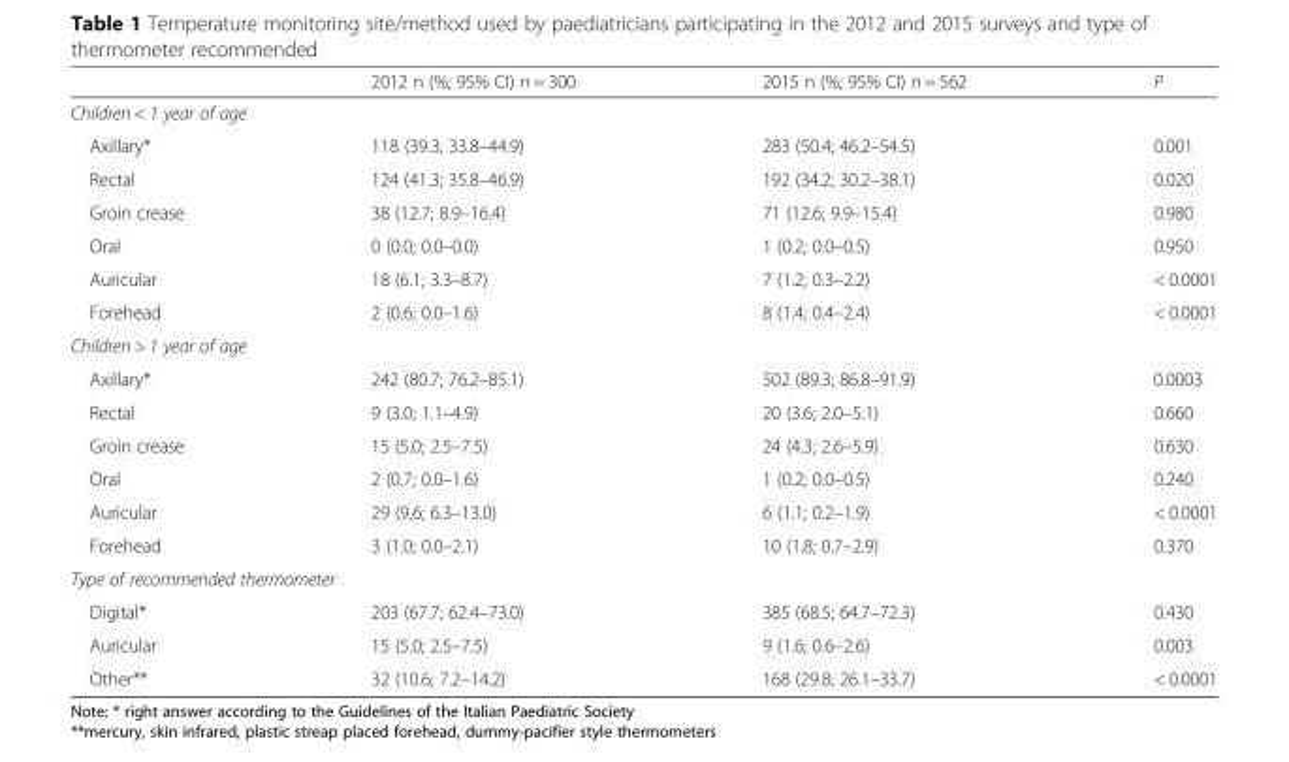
<table><thead><tr><td></td><td>2012 n (%; 95% CI) n = 300</td><td>2015 n (%; 95% CI) n = 562</td><td>P</td></tr></thead><tbody><tr><td colspan="4">Children &lt; 1 year of age</td></tr><tr><td>Axillary*</td><td>118 (39.3; 33.8–44.9)</td><td>283 (50.4; 46.2–54.5)</td><td>0.001</td></tr><tr><td>Rectal</td><td>124 (41.3; 35.8–46.9)</td><td>192 (34.2; 30.2–38.1)</td><td>0.020</td></tr><tr><td>Groin crease</td><td>38 (12.7; 8.9–16.4)</td><td>71 (12.6; 9.9–15.4)</td><td>0.980</td></tr><tr><td>Oral</td><td>0 (0.0; 0.0–0.0)</td><td>1 (0.2; 0.0–0.5)</td><td>0.950</td></tr><tr><td>Auricular</td><td>18 (6.1; 3.3–8.7)</td><td>7 (1.2; 0.3–2.2)</td><td>&lt; 0.0001</td></tr><tr><td>Forehead</td><td>2 (0.6; 0.0–1.6)</td><td>8 (1.4; 0.4–2.4)</td><td>&lt; 0.0001</td></tr><tr><td colspan="4">Children &gt; 1 year of age</td></tr><tr><td>Axillary*</td><td>242 (80.7; 76.2–85.1)</td><td>502 (89.3; 86.8–91.9)</td><td>0.0003</td></tr><tr><td>Rectal</td><td>9 (3.0; 1.1–4.9)</td><td>20 (3.6; 2.0–5.1)</td><td>0.660</td></tr><tr><td>Groin crease</td><td>15 (5.0; 2.5–7.5)</td><td>24 (4.3; 2.6–5.9)</td><td>0.630</td></tr><tr><td>Oral</td><td>2 (0.7; 0.0–1.6)</td><td>1 (0.2; 0.0–0.5)</td><td>0.240</td></tr><tr><td>Auricular</td><td>29 (9.6; 6.3–13.0)</td><td>6 (1.1; 0.2–1.9)</td><td>&lt; 0.0001</td></tr><tr><td>Forehead</td><td>3 (1.0; 0.0–2.1)</td><td>10 (1.8; 0.7–2.9)</td><td>0.370</td></tr><tr><td colspan="4">Type of recommended thermometer</td></tr><tr><td>Digital*</td><td>203 (67.7; 62.4–73.0)</td><td>385 (68.5; 64.7–72.3)</td><td>0.430</td></tr><tr><td>Auricular</td><td>15 (5.0; 2.5–7.5)</td><td>9 (1.6; 0.6–2.6)</td><td>0.003</td></tr><tr><td>Other**</td><td>32 (10.6; 7.2–14.2)</td><td>168 (29.8; 26.1–33.7)</td><td>&lt; 0.0001</td></tr></tbody></table>